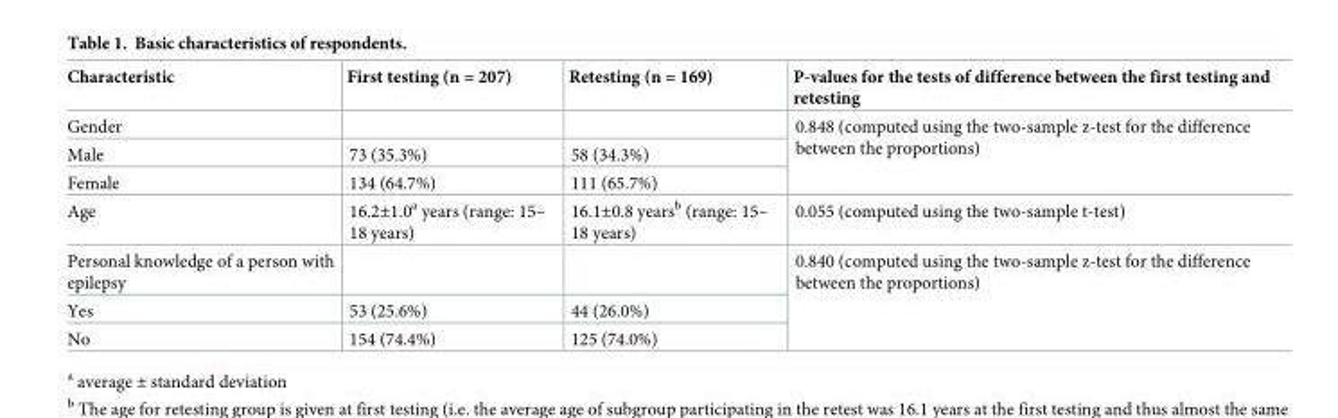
<table><thead><tr><td>Characteristic</td><td>First testing (n = 207)</td><td>Retesting (n = 169)</td><td>P-values for the tests of difference between the first testing and retesting</td></tr></thead><tbody><tr><td colspan="3">Gender</td><td rowspan="3">0.848 (computed using the two-sample z-test for the difference between the proportions)</td></tr><tr><td>Male</td><td>73 (35.3%)</td><td>58 (34.3%)</td></tr><tr><td>Female</td><td>134 (64.7%)</td><td>111 (65.7%)</td></tr><tr><td>Age</td><td>16.2±1.0<sup>a</sup> years (range: 15– 18 years)</td><td>16.1±0.8 years<sup>b</sup> (range: 15– 18 years)</td><td>0.055 (computed using the two-sample t-test)</td></tr><tr><td colspan="3">Personal knowledge of a person with epilepsy</td><td rowspan="3">0.840 (computed using the two-sample z-test for the difference between the proportions)</td></tr><tr><td>Yes</td><td>53 (25.6%)</td><td>44 (26.0%)</td></tr><tr><td>No</td><td>154 (74.4%)</td><td>125 (74.0%)</td></tr></tbody></table>